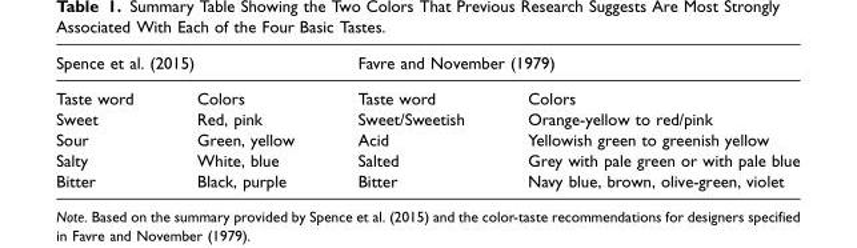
<table><thead><tr><td colspan="2">Spence et al. (2015)</td><td colspan="2">Favre and November (1979)</td></tr><tr><td>Taste word</td><td>Colors</td><td>Taste word</td><td>Colors</td></tr></thead><tbody><tr><td>Sweet</td><td>Red, pink</td><td>Sweet/Sweetish</td><td>Orange-yellow to red/pink</td></tr><tr><td>Sour</td><td>Green, yellow</td><td>Acid</td><td>Yellowish green to greenish yellow</td></tr><tr><td>Salty</td><td>White, blue</td><td>Salted</td><td>Grey with pale green or with pale blue</td></tr><tr><td>Bitter</td><td>Black, purple</td><td>Bitter</td><td>Navy blue, brown, olive-green, violet</td></tr></tbody></table>